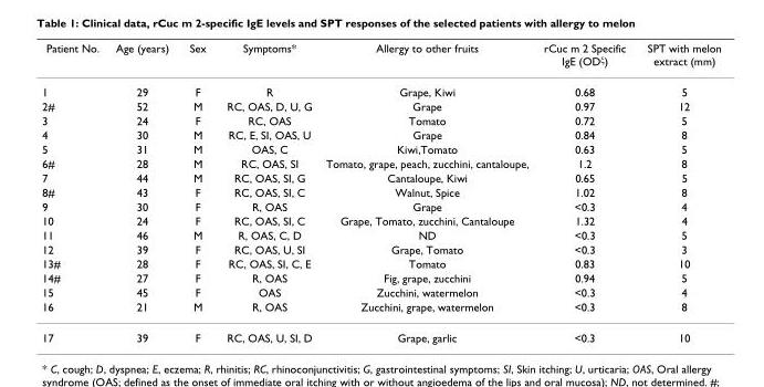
<table><thead><tr><td>Patient No.</td><td>Age (years)</td><td>Sex</td><td>Symptoms*</td><td>Allergy to other fruits</td><td>rCuc m 2 Specific IgE (OD<sup>ξ</sup>)</td><td>SPT with melon extract (mm)</td></tr></thead><tbody><tr><td>1</td><td>29</td><td>F</td><td>R</td><td>Grape, Kiwi</td><td>0.68</td><td>5</td></tr><tr><td>2#</td><td>52</td><td>M</td><td>RC, OAS, D, U, G</td><td>Grape</td><td>0.97</td><td>12</td></tr><tr><td>3</td><td>24</td><td>F</td><td>RC, OAS</td><td>Tomato</td><td>0.72</td><td>5</td></tr><tr><td>4</td><td>30</td><td>M</td><td>RC, E, SI, OAS, U</td><td>Grape</td><td>0.84</td><td>8</td></tr><tr><td>5</td><td>31</td><td>M</td><td>OAS, C</td><td>Kiwi,Tomato</td><td>0.63</td><td>5</td></tr><tr><td>6#</td><td>28</td><td>M</td><td>RC, OAS, SI</td><td>Tomato, grape, peach, zucchini, cantaloupe,</td><td>1.2</td><td>8</td></tr><tr><td>7</td><td>44</td><td>M</td><td>RC, OAS, SI, G</td><td>Cantaloupe, Kiwi</td><td>0.65</td><td>5</td></tr><tr><td>8#</td><td>43</td><td>F</td><td>RC, OAS, SI, C</td><td>Walnut, Spice</td><td>1.02</td><td>8</td></tr><tr><td>9</td><td>30</td><td>F</td><td>R, OAS</td><td>Grape</td><td>&lt;0.3</td><td>4</td></tr><tr><td>10</td><td>24</td><td>F</td><td>RC, OAS, SI, C</td><td>Grape, Tomato, zucchini, Cantaloupe</td><td>1.32</td><td>4</td></tr><tr><td>11</td><td>46</td><td>M</td><td>R, OAS, C, D</td><td>ND</td><td>&lt;0.3</td><td>5</td></tr><tr><td>12</td><td>39</td><td>F</td><td>RC, OAS, U, SI</td><td>Grape, Tomato</td><td>&lt;0.3</td><td>3</td></tr><tr><td>13#</td><td>28</td><td>F</td><td>RC, OAS, SI, C, E</td><td>Tomato</td><td>0.83</td><td>10</td></tr><tr><td>14#</td><td>27</td><td>F</td><td>R, OAS</td><td>Fig, grape, zucchini</td><td>0.94</td><td>5</td></tr><tr><td>15</td><td>45</td><td>F</td><td>OAS</td><td>Zucchini, watermelon</td><td>&lt;0.3</td><td>4</td></tr><tr><td>16</td><td>21</td><td>M</td><td>R, OAS</td><td>Zucchini, grape, watermelon</td><td>&lt;0.3</td><td>8</td></tr><tr><td>17</td><td>39</td><td>F</td><td>RC, OAS, U, SI, D</td><td>Grape, garlic</td><td>&lt;0.3</td><td>10</td></tr></tbody></table>